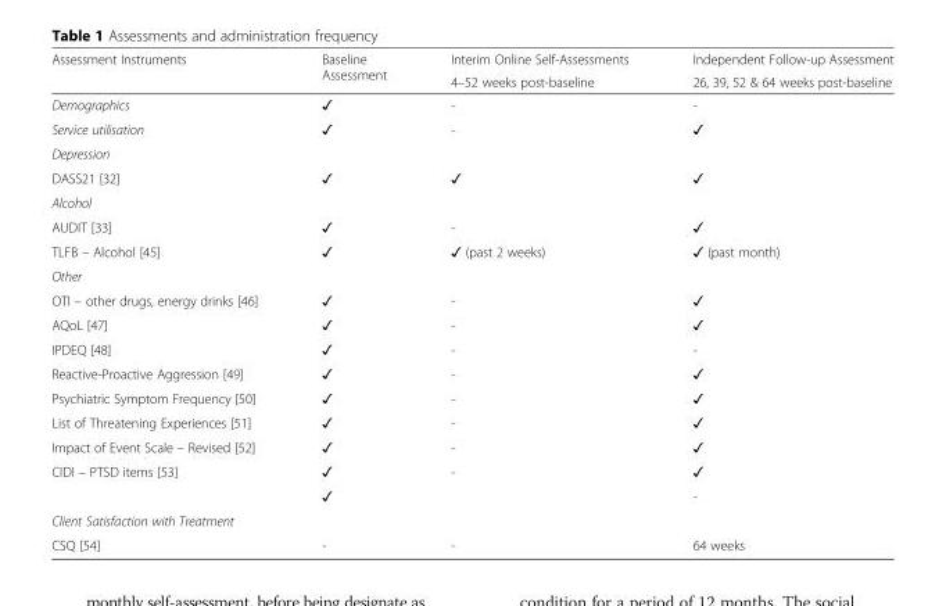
<table><thead><tr><td rowspan="2">Assessment Instruments</td><td rowspan="2">Baseline Assessment</td><td rowspan="2">Interim Online Self-Assessments 4–52 weeks post-baseline</td><td rowspan="2">Independent Follow-up Assessment 26, 39, 52 &amp; 64 weeks post-baseline</td></tr><tr></tr></thead><tbody><tr><td>Demographics</td><td>✓</td><td>-</td><td>-</td></tr><tr><td>Service utilisation</td><td>✓</td><td>-</td><td>✓</td></tr><tr><td colspan="4">Depression</td></tr><tr><td>DASS21 [32]</td><td>✓</td><td>✓</td><td>✓</td></tr><tr><td colspan="4">Alcohol</td></tr><tr><td>AUDIT [33]</td><td>✓</td><td>-</td><td>✓</td></tr><tr><td>TLFB – Alcohol [45]</td><td>✓</td><td>✓ (past 2 weeks)</td><td>✓ (past month)</td></tr><tr><td colspan="4">Other</td></tr><tr><td>OTI – other drugs, energy drinks [46]</td><td>✓</td><td>-</td><td>✓</td></tr><tr><td>AQoL [47]</td><td>✓</td><td>-</td><td>✓</td></tr><tr><td>IPDEQ [48]</td><td>✓</td><td>-</td><td>-</td></tr><tr><td>Reactive-Proactive Aggression [49]</td><td>✓</td><td>-</td><td>✓</td></tr><tr><td>Psychiatric Symptom Frequency [50]</td><td>✓</td><td>-</td><td>✓</td></tr><tr><td>List of Threatening Experiences [51]</td><td>✓</td><td>-</td><td>✓</td></tr><tr><td>Impact of Event Scale – Revised [52]</td><td>✓</td><td>-</td><td>✓</td></tr><tr><td rowspan="2">CIDI – PTSD items [53]</td><td>✓</td><td>-</td><td>✓</td></tr><tr><td>✓</td><td></td><td>-</td></tr><tr><td colspan="4">Client Satisfaction with Treatment</td></tr><tr><td>CSQ [54]</td><td>-</td><td>-</td><td>64 weeks</td></tr></tbody></table>